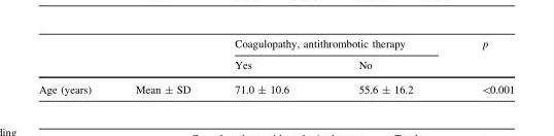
<table><thead><tr><td rowspan="2"></td><td rowspan="2"></td><td colspan="2">Coagulopathy, antithrombotic therapy</td><td rowspan="2">p</td></tr><tr><td>Yes</td><td>No</td></tr></thead><tbody><tr><td>Age (years)</td><td>Mean ± SD</td><td>71.0 ± 10.6</td><td>55.6 ± 16.2</td><td>&lt;0.001</td></tr></tbody></table>